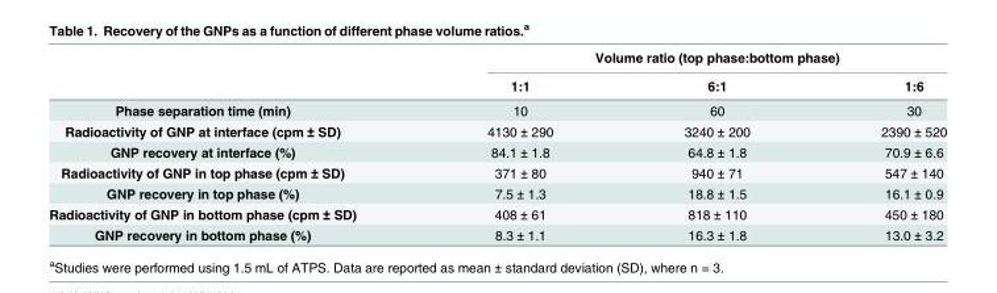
<table><thead><tr><td rowspan="2"></td><td colspan="3">Volume ratio (top phase:bottom phase)</td></tr><tr><td>1:1</td><td>6:1</td><td>1:6</td></tr></thead><tbody><tr><td>Phase separation time (min)</td><td>10</td><td>60</td><td>30</td></tr><tr><td>Radioactivity of GNP at interface (cpm ± SD)</td><td>4130 ± 290</td><td>3240 ± 200</td><td>2390 ± 520</td></tr><tr><td>GNP recovery at interface (%)</td><td>84.1 ± 1.8</td><td>64.8 ± 1.8</td><td>70.9 ± 6.6</td></tr><tr><td>Radioactivity of GNP in top phase (cpm ± SD)</td><td>371 ± 80</td><td>940 ± 71</td><td>547 ± 140</td></tr><tr><td>GNP recovery in top phase (%)</td><td>7.5 ± 1.3</td><td>18.8 ± 1.5</td><td>16.1 ± 0.9</td></tr><tr><td>Radioactivity of GNP in bottom phase (cpm ± SD)</td><td>408 ± 61</td><td>818 ± 110</td><td>450 ± 180</td></tr><tr><td>GNP recovery in bottom phase (%)</td><td>8.3 ± 1.1</td><td>16.3 ± 1.8</td><td>13.0 ± 3.2</td></tr></tbody></table>